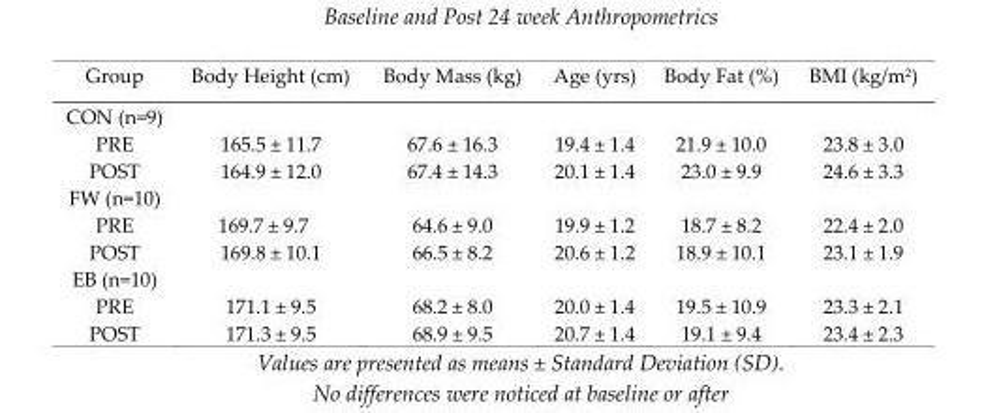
<table><thead><tr><td>Group</td><td>Body Height (cm)</td><td>Body Mass (kg)</td><td>Age (yrs)</td><td>Body Fat (%)</td><td>BMI (kg/m<sup>2</sup>)</td></tr></thead><tbody><tr><td colspan="6">CON (n=9)</td></tr><tr><td>PRE</td><td>165.5 ± 11.7</td><td>67.6 ± 16.3</td><td>19.4 ± 1.4</td><td>21.9 ± 10.0</td><td>23.8 ± 3.0</td></tr><tr><td>POST</td><td>164.9 ± 12.0</td><td>67.4 ± 14.3</td><td>20.1 ± 1.4</td><td>23.0 ± 9.9</td><td>24.6 ± 3.3</td></tr><tr><td colspan="6">FW (n=10)</td></tr><tr><td>PRE</td><td>169.7 ± 9.7</td><td>64.6 ± 9.0</td><td>19.9 ± 1.2</td><td>18.7 ± 8.2</td><td>22.4 ± 2.0</td></tr><tr><td>POST</td><td>169.8 ± 10.1</td><td>66.5 ± 8.2</td><td>20.6 ± 1.2</td><td>18.9 ± 10.1</td><td>23.1 ± 1.9</td></tr><tr><td colspan="6">EB (n=10)</td></tr><tr><td>PRE</td><td>171.1 ± 9.5</td><td>68.2 ± 8.0</td><td>20.0 ± 1.4</td><td>19.5 ± 10.9</td><td>23.3 ± 2.1</td></tr><tr><td>POST</td><td>171.3 ± 9.5</td><td>68.9 ± 9.5</td><td>20.7 ± 1.4</td><td>19.1 ± 9.4</td><td>23.4 ± 2.3</td></tr></tbody></table>